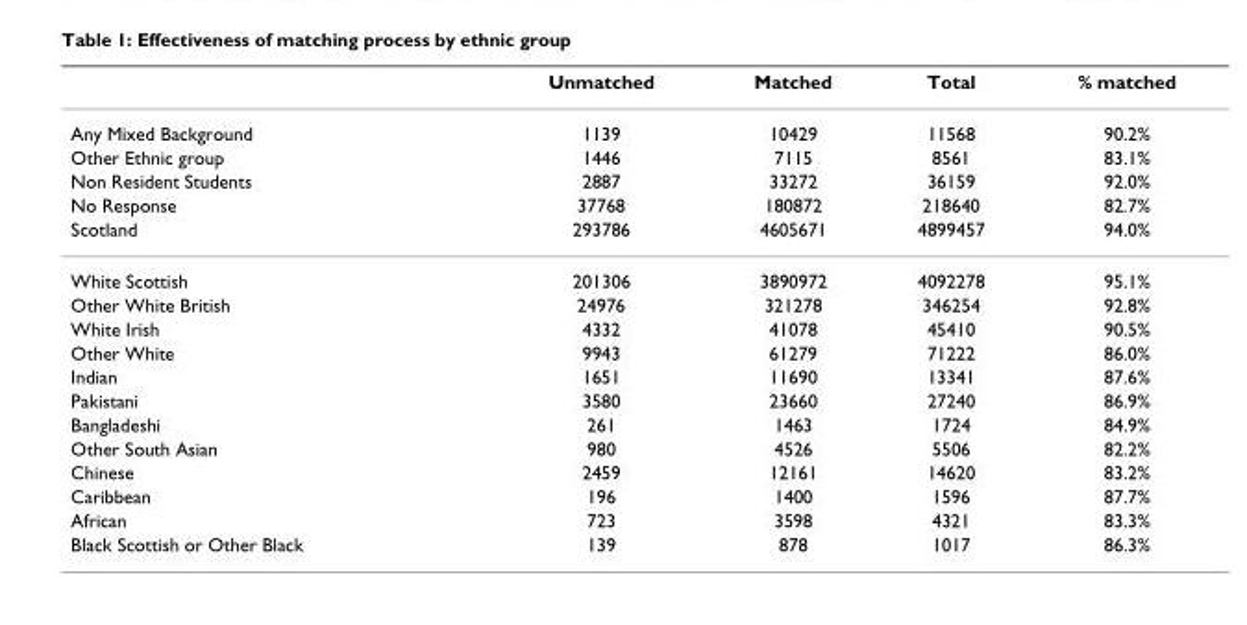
<table><thead><tr><td></td><td>Unmatched</td><td>Matched</td><td>Total</td><td>% matched</td></tr></thead><tbody><tr><td>Any Mixed Background</td><td>1139</td><td>10429</td><td>11568</td><td>90.2%</td></tr><tr><td>Other Ethnic group</td><td>1446</td><td>7115</td><td>8561</td><td>83.1%</td></tr><tr><td>Non Resident Students</td><td>2887</td><td>33272</td><td>36159</td><td>92.0%</td></tr><tr><td>No Response</td><td>37768</td><td>180872</td><td>218640</td><td>82.7%</td></tr><tr><td>Scotland</td><td>293786</td><td>4605671</td><td>4899457</td><td>94.0%</td></tr><tr><td>White Scottish</td><td>201306</td><td>3890972</td><td>4092278</td><td>95.1%</td></tr><tr><td>Other White British</td><td>24976</td><td>321278</td><td>346254</td><td>92.8%</td></tr><tr><td>White Irish</td><td>4332</td><td>41078</td><td>45410</td><td>90.5%</td></tr><tr><td>Other White</td><td>9943</td><td>61279</td><td>71222</td><td>86.0%</td></tr><tr><td>Indian</td><td>1651</td><td>11690</td><td>13341</td><td>87.6%</td></tr><tr><td>Pakistani</td><td>3580</td><td>23660</td><td>27240</td><td>86.9%</td></tr><tr><td>Bangladeshi</td><td>261</td><td>1463</td><td>1724</td><td>84.9%</td></tr><tr><td>Other South Asian</td><td>980</td><td>4526</td><td>5506</td><td>82.2%</td></tr><tr><td>Chinese</td><td>2459</td><td>12161</td><td>14620</td><td>83.2%</td></tr><tr><td>Caribbean</td><td>196</td><td>1400</td><td>1596</td><td>87.7%</td></tr><tr><td>African</td><td>723</td><td>3598</td><td>4321</td><td>83.3%</td></tr><tr><td>Black Scottish or Other Black</td><td>139</td><td>878</td><td>1017</td><td>86.3%</td></tr></tbody></table>